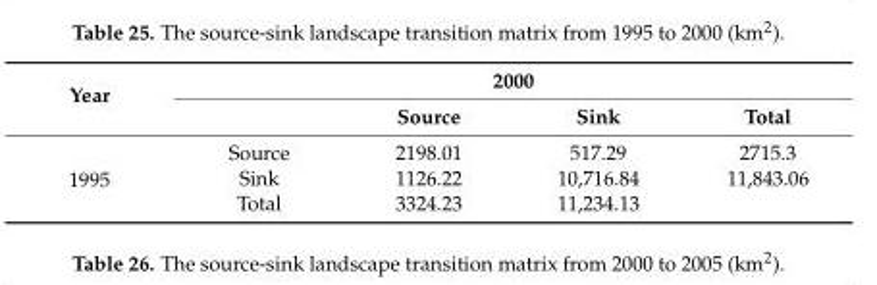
<table><thead><tr><td rowspan="2">Year</td><td colspan="4">2000</td></tr><tr><td></td><td>Source</td><td>Sink</td><td>Total</td></tr></thead><tbody><tr><td rowspan="3">1995</td><td>Source</td><td>2198.01</td><td>517.29</td><td>2715.3</td></tr><tr><td>Sink</td><td>1126.22</td><td>10,716.84</td><td>11,843.06</td></tr><tr><td>Total</td><td>3324.23</td><td>11,234.13</td><td></td></tr></tbody></table>